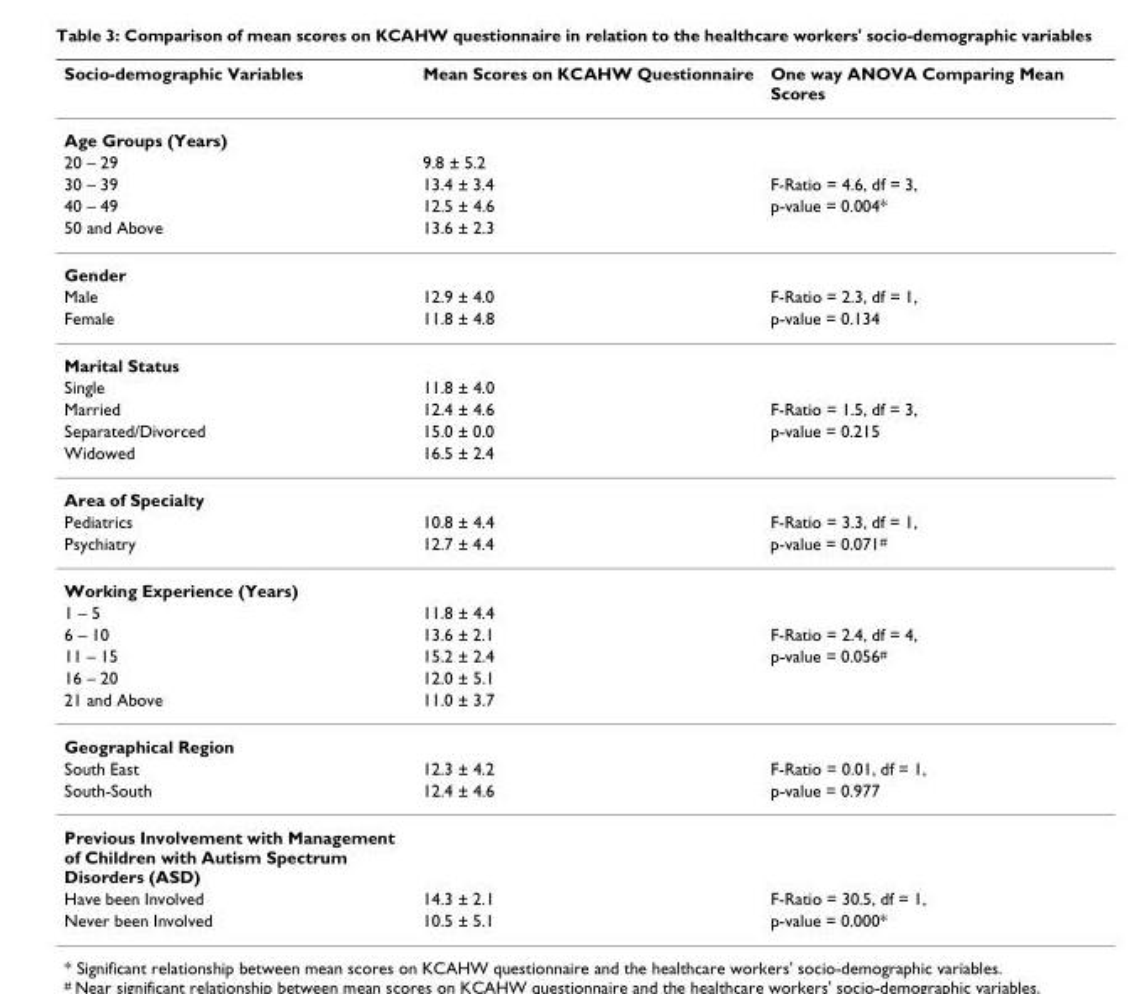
<table><thead><tr><td>Socio-demographic Variables</td><td>Mean Scores on KCAHW Questionnaire</td><td>One way ANOVA Comparing Mean Scores</td></tr></thead><tbody><tr><td colspan="3">Age Groups (Years)</td></tr><tr><td>20 – 29</td><td>9.8 ± 5.2</td><td></td></tr><tr><td>30 – 39</td><td>13.4 ± 3.4</td><td>F-Ratio = 4.6, df = 3,</td></tr><tr><td>40 – 49</td><td>12.5 ± 4.6</td><td>p-value = 0.004*</td></tr><tr><td>50 and Above</td><td>13.6 ± 2.3</td><td></td></tr><tr><td colspan="3">Gender</td></tr><tr><td>Male</td><td>12.9 ± 4.0</td><td>F-Ratio = 2.3, df = 1,</td></tr><tr><td>Female</td><td>11.8 ± 4.8</td><td>p-value = 0.134</td></tr><tr><td colspan="3">Marital Status</td></tr><tr><td>Single</td><td>11.8 ± 4.0</td><td></td></tr><tr><td>Married</td><td>12.4 ± 4.6</td><td>F-Ratio = 1.5, df = 3,</td></tr><tr><td>Separated/Divorced</td><td>15.0 ± 0.0</td><td>p-value = 0.215</td></tr><tr><td>Widowed</td><td>16.5 ± 2.4</td><td></td></tr><tr><td colspan="3">Area of Specialty</td></tr><tr><td>Pediatrics</td><td>10.8 ± 4.4</td><td>F-Ratio = 3.3, df = 1,</td></tr><tr><td>Psychiatry</td><td>12.7 ± 4.4</td><td>p-value = 0.071#</td></tr><tr><td colspan="3">Working Experience (Years)</td></tr><tr><td>1 – 5</td><td>11.8 ± 4.4</td><td></td></tr><tr><td>6 – 10</td><td>13.6 ± 2.1</td><td>F-Ratio = 2.4, df = 4,</td></tr><tr><td>11 – 15</td><td>15.2 ± 2.4</td><td>p-value = 0.056#</td></tr><tr><td>16 – 20</td><td>12.0 ± 5.1</td><td></td></tr><tr><td>21 and Above</td><td>11.0 ± 3.7</td><td></td></tr><tr><td colspan="3">Geographical Region</td></tr><tr><td>South East</td><td>12.3 ± 4.2</td><td>F-Ratio = 0.01, df = 1,</td></tr><tr><td>South-South</td><td>12.4 ± 4.6</td><td>p-value = 0.977</td></tr><tr><td colspan="3">Previous Involvement with Management of Children with Autism Spectrum Disorders (ASD)</td></tr><tr><td>Have been Involved</td><td>14.3 ± 2.1</td><td>F-Ratio = 30.5, df = 1,</td></tr><tr><td>Never been Involved</td><td>10.5 ± 5.1</td><td>p-value = 0.000*</td></tr></tbody></table>